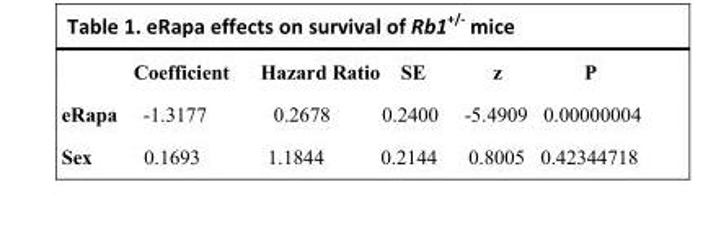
<table><thead><tr><td></td><td>Coefficient</td><td>Hazard Ratio</td><td>SE</td><td>z</td><td>P</td></tr></thead><tbody><tr><td>eRapa</td><td>-1.3177</td><td>0.2678</td><td>0.2400</td><td>-5.4909</td><td>0.00000004</td></tr><tr><td>Sex</td><td>0.1693</td><td>1.1844</td><td>0.2144</td><td>0.8005</td><td>0.42344718</td></tr></tbody></table>